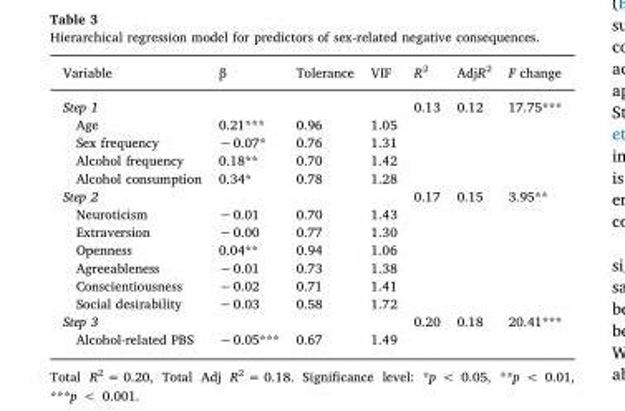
<table><thead><tr><td>Variable</td><td>β</td><td>Tolerance</td><td>VIF</td><td>R<sup>2</sup></td><td>AdjR<sup>2</sup></td><td>F change</td></tr></thead><tbody><tr><td>Step 1</td><td></td><td></td><td></td><td>0.13</td><td>0.12</td><td>17.75***</td></tr><tr><td>Age</td><td>0.21***</td><td>0.96</td><td>1.05</td><td></td><td></td><td></td></tr><tr><td>Sex frequency</td><td>−0.07*</td><td>0.76</td><td>1.31</td><td></td><td></td><td></td></tr><tr><td>Alcohol frequency</td><td>0.18**</td><td>0.70</td><td>1.42</td><td></td><td></td><td></td></tr><tr><td>Alcohol consumption</td><td>0.34*</td><td>0.78</td><td>1.28</td><td></td><td></td><td></td></tr><tr><td>Step 2</td><td></td><td></td><td></td><td>0.17</td><td>0.15</td><td>3.95**</td></tr><tr><td>Neuroticism</td><td>−0.01</td><td>0.70</td><td>1.43</td><td></td><td></td><td></td></tr><tr><td>Extraversion</td><td>−0.00</td><td>0.77</td><td>1.30</td><td></td><td></td><td></td></tr><tr><td>Openness</td><td>0.04**</td><td>0.94</td><td>1.06</td><td></td><td></td><td></td></tr><tr><td>Agreeableness</td><td>−0.01</td><td>0.73</td><td>1.38</td><td></td><td></td><td></td></tr><tr><td>Conscientiousness</td><td>−0.02</td><td>0.71</td><td>1.41</td><td></td><td></td><td></td></tr><tr><td>Social desirability</td><td>−0.03</td><td>0.58</td><td>1.72</td><td></td><td></td><td></td></tr><tr><td>Step 3</td><td></td><td></td><td></td><td>0.20</td><td>0.18</td><td>20.41***</td></tr><tr><td>Alcohol-related PBS</td><td>−0.05***</td><td>0.67</td><td>1.49</td><td></td><td></td><td></td></tr></tbody></table>